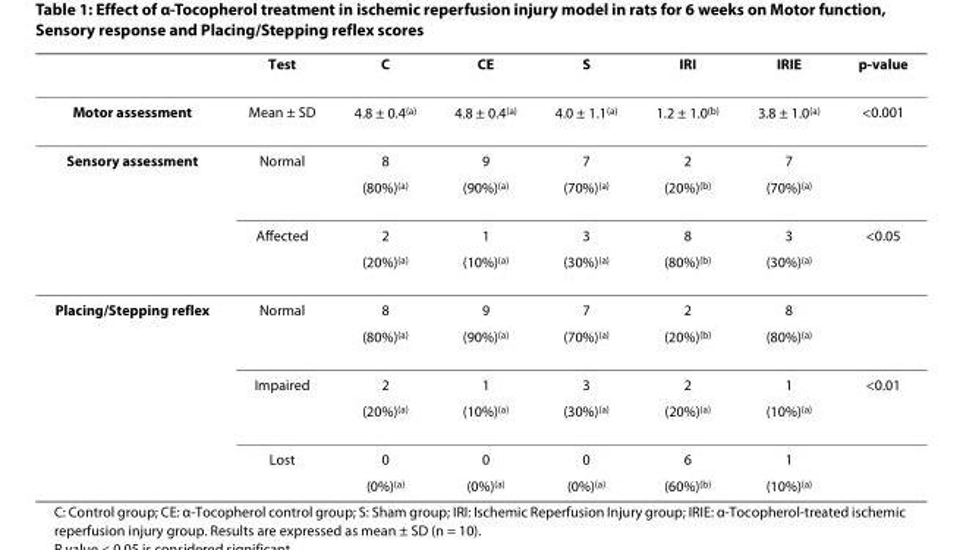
<table><thead><tr><td></td><td>Test</td><td>C</td><td>CE</td><td>S</td><td>IRI</td><td>IRIE</td><td>p-value</td></tr></thead><tbody><tr><td>Motor assessment</td><td>Mean ± SD</td><td>4.8 ± 0.4<sup>(a)</sup></td><td>4.8 ± 0.4<sup>(a)</sup></td><td>4.0 ± 1.1<sup>(a)</sup></td><td>1.2 ± 1.0<sup>(b)</sup></td><td>3.8 ± 1.0<sup>(a)</sup></td><td>&lt;0.001</td></tr><tr><td rowspan="4">Sensory assessment</td><td>Normal</td><td>8</td><td>9</td><td>7</td><td>2</td><td>7</td><td></td></tr><tr><td></td><td>(80%)<sup>(a)</sup></td><td>(90%)<sup>(a)</sup></td><td>(70%)<sup>(a)</sup></td><td>(20%)<sup>(b)</sup></td><td>(70%)<sup>(a)</sup></td><td></td></tr><tr><td>Affected</td><td>2</td><td>1</td><td>3</td><td>8</td><td>3</td><td>&lt;0.05</td></tr><tr><td></td><td>(20%)<sup>(a)</sup></td><td>(10%)<sup>(a)</sup></td><td>(30%)<sup>(a)</sup></td><td>(80%)<sup>(b)</sup></td><td>(30%)<sup>(a)</sup></td><td></td></tr><tr><td rowspan="6">Placing/Stepping reflex</td><td>Normal</td><td>8</td><td>9</td><td>7</td><td>2</td><td>8</td><td></td></tr><tr><td></td><td>(80%)<sup>(a)</sup></td><td>(90%)<sup>(a)</sup></td><td>(70%)<sup>(a)</sup></td><td>(20%)<sup>(b)</sup></td><td>(80%)<sup>(a)</sup></td><td></td></tr><tr><td>Impaired</td><td>2</td><td>1</td><td>3</td><td>2</td><td>1</td><td>&lt;0.01</td></tr><tr><td></td><td>(20%)<sup>(a)</sup></td><td>(10%)<sup>(a)</sup></td><td>(30%)<sup>(a)</sup></td><td>(20%)<sup>(a)</sup></td><td>(10%)<sup>(a)</sup></td><td></td></tr><tr><td>Lost</td><td>0</td><td>0</td><td>0</td><td>6</td><td>1</td><td></td></tr><tr><td></td><td>(0%)<sup>(a)</sup></td><td>(0%)<sup>(a)</sup></td><td>(0%)<sup>(a)</sup></td><td>(60%)<sup>(b)</sup></td><td>(10%)<sup>(a)</sup></td><td></td></tr></tbody></table>